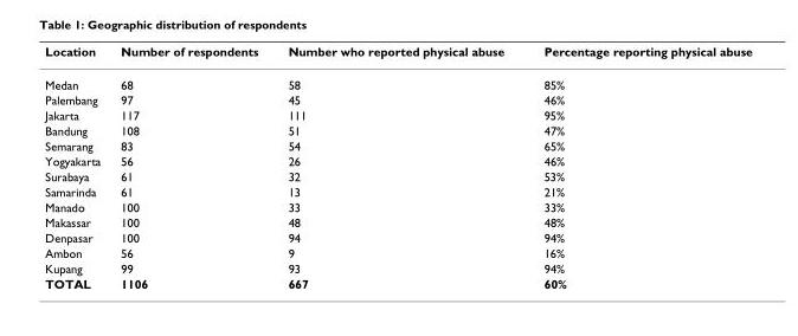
<table><thead><tr><td>Location</td><td>Number of respondents</td><td>Number who reported physical abuse</td><td>Percentage reporting physical abuse</td></tr></thead><tbody><tr><td>Medan</td><td>68</td><td>58</td><td>85%</td></tr><tr><td>Palembang</td><td>97</td><td>45</td><td>46%</td></tr><tr><td>Jakarta</td><td>117</td><td>111</td><td>95%</td></tr><tr><td>Bandung</td><td>108</td><td>51</td><td>47%</td></tr><tr><td>Semarang</td><td>83</td><td>54</td><td>65%</td></tr><tr><td>Yogyakarta</td><td>56</td><td>26</td><td>46%</td></tr><tr><td>Surabaya</td><td>61</td><td>32</td><td>53%</td></tr><tr><td>Samarinda</td><td>61</td><td>13</td><td>21%</td></tr><tr><td>Manado</td><td>100</td><td>33</td><td>33%</td></tr><tr><td>Makassar</td><td>100</td><td>48</td><td>48%</td></tr><tr><td>Denpasar</td><td>100</td><td>94</td><td>94%</td></tr><tr><td>Ambon</td><td>56</td><td>9</td><td>16%</td></tr><tr><td>Kupang</td><td>99</td><td>93</td><td>94%</td></tr><tr><td>TOTAL</td><td>1106</td><td>667</td><td>60%</td></tr></tbody></table>